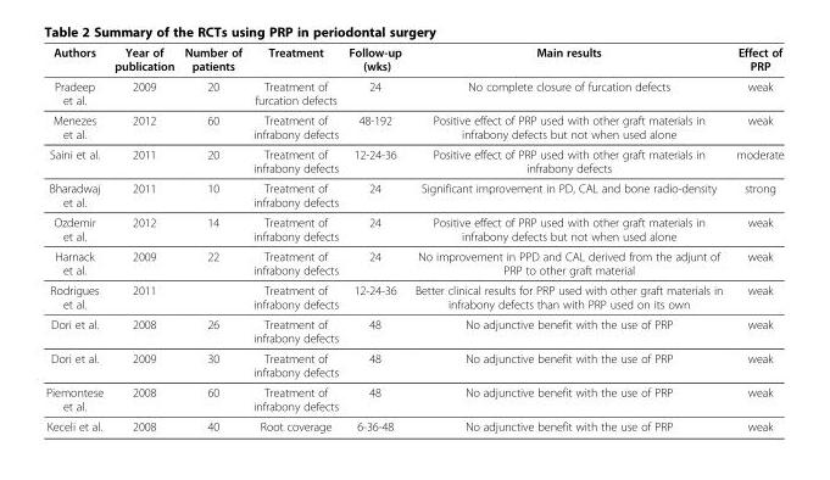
<table><thead><tr><td>Authors</td><td>Year of publication</td><td>Number of patients</td><td>Treatment</td><td>Follow-up (wks)</td><td>Main results</td><td>Effect of PRP</td></tr></thead><tbody><tr><td>Pradeep et al.</td><td>2009</td><td>20</td><td>Treatment of furcation defects</td><td>24</td><td>No complete closure of furcation defects</td><td>weak</td></tr><tr><td>Menezes et al.</td><td>2012</td><td>60</td><td>Treatment of infrabony defects</td><td>48-192</td><td>Positive effect of PRP used with other graft materials in infrabony defects but not when used alone</td><td>weak</td></tr><tr><td>Saini et al.</td><td>2011</td><td>20</td><td>Treatment of infrabony defects</td><td>12-24-36</td><td>Positive effect of PRP used with other graft materials in infrabony defects</td><td>moderate</td></tr><tr><td>Bharadwaj et al.</td><td>2011</td><td>10</td><td>Treatment of infrabony defects</td><td>24</td><td>Significant improvement in PD, CAL and bone radio-density</td><td>strong</td></tr><tr><td>Ozdemir et al.</td><td>2012</td><td>14</td><td>Treatment of infrabony defects</td><td>24</td><td>Positive effect of PRP used with other graft materials in infrabony defects but not when used alone</td><td>weak</td></tr><tr><td>Harnack et al.</td><td>2009</td><td>22</td><td>Treatment of infrabony defects</td><td>24</td><td>No improvement in PPD and CAL derived from the adjunt of PRP to other graft material</td><td>weak</td></tr><tr><td>Rodrigues et al.</td><td>2011</td><td></td><td>Treatment of infrabony defects</td><td>12-24-36</td><td>Better clinical results for PRP used with other graft materials in infrabony defects than with PRP used on its own</td><td>weak</td></tr><tr><td>Dori et al.</td><td>2008</td><td>26</td><td>Treatment of infrabony defects</td><td>48</td><td>No adjunctive benefit with the use of PRP</td><td>weak</td></tr><tr><td>Dori et al.</td><td>2009</td><td>30</td><td>Treatment of infrabony defects</td><td>48</td><td>No adjunctive benefit with the use of PRP</td><td>weak</td></tr><tr><td>Piemontese et al.</td><td>2008</td><td>60</td><td>Treatment of infrabony defects</td><td>48</td><td>No adjunctive benefit with the use of PRP</td><td>weak</td></tr><tr><td>Keceli et al.</td><td>2008</td><td>40</td><td>Root coverage</td><td>6-36-48</td><td>No adjunctive benefit with the use of PRP</td><td>weak</td></tr></tbody></table>